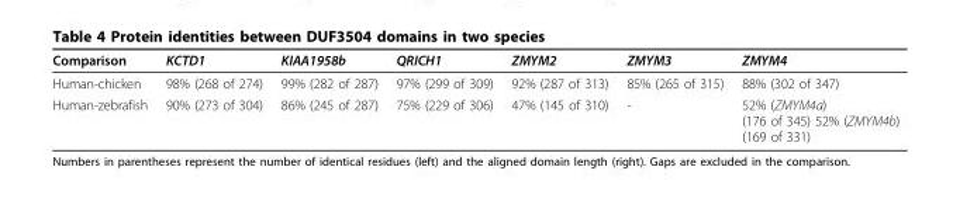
<table><thead><tr><td>Comparison</td><td>KCTD1</td><td>KIAA1958b</td><td>QRICH1</td><td>ZMYM2</td><td>ZMYM3</td><td>ZMYM4</td></tr></thead><tbody><tr><td>Human-chicken</td><td>98% (268 of 274)</td><td>99% (282 of 287)</td><td>97% (299 of 309)</td><td>92% (287 of 313)</td><td>85% (265 of 315)</td><td>88% (302 of 347)</td></tr><tr><td>Human-zebrafish</td><td>90% (273 of 304)</td><td>86% (245 of 287)</td><td>75% (229 of 306)</td><td>47% (145 of 310)</td><td>-</td><td>52% (ZMYM4a) (176 of 345) 52% (ZMYM4b) (169 of 331)</td></tr></tbody></table>